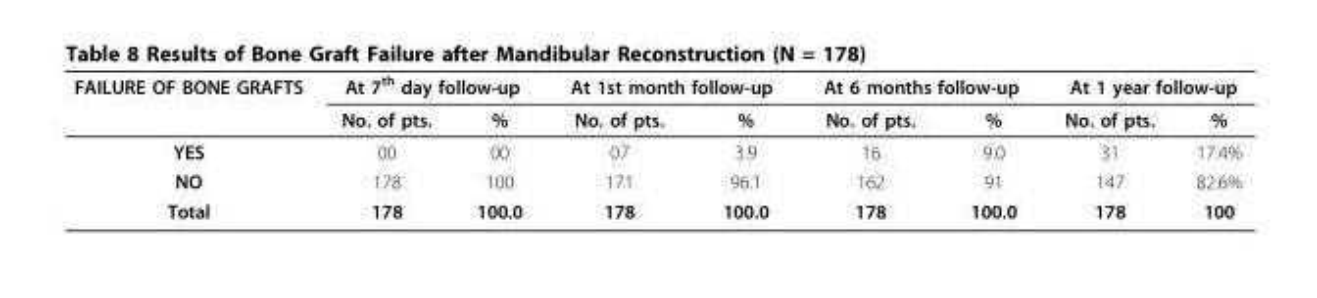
<table><thead><tr><td rowspan="2">FAILURE OF BONE GRAFTS</td><td colspan="2">At 7<sup>th</sup> day follow-up</td><td colspan="2">At 1st month follow-up</td><td colspan="2">At 6 months follow-up</td><td colspan="2">At 1 year follow-up</td></tr><tr><td>No. of pts.</td><td>%</td><td>No. of pts.</td><td>%</td><td>No. of pts.</td><td>%</td><td>No. of pts.</td><td>%</td></tr></thead><tbody><tr><td>YES</td><td>00</td><td>00</td><td>07</td><td>3.9</td><td>16</td><td>9.0</td><td>31</td><td>17.4%</td></tr><tr><td>NO</td><td>178</td><td>100</td><td>171</td><td>96.1</td><td>162</td><td>91</td><td>147</td><td>82.6%</td></tr><tr><td>Total</td><td>178</td><td>100.0</td><td>178</td><td>100.0</td><td>178</td><td>100.0</td><td>178</td><td>100</td></tr></tbody></table>